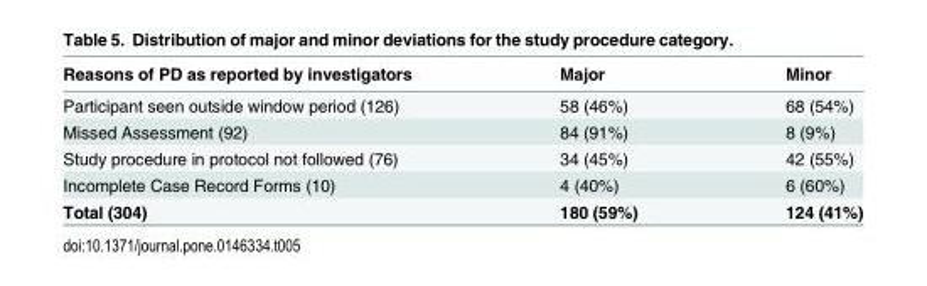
<table><thead><tr><td>Reasons of PD as reported by investigators</td><td>Major</td><td>Minor</td></tr></thead><tbody><tr><td>Participant seen outside window period (126)</td><td>58 (46%)</td><td>68 (54%)</td></tr><tr><td>Missed Assessment (92)</td><td>84 (91%)</td><td>8 (9%)</td></tr><tr><td>Study procedure in protocol not followed (76)</td><td>34 (45%)</td><td>42 (55%)</td></tr><tr><td>Incomplete Case Record Forms (10)</td><td>4 (40%)</td><td>6 (60%)</td></tr><tr><td>Total (304)</td><td>180 (59%)</td><td>124 (41%)</td></tr></tbody></table>